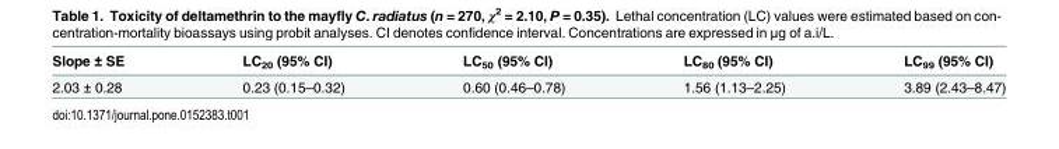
<table><thead><tr><td>Slope ± SE</td><td>LC<sub>20</sub> (95% CI)</td><td>LC<sub>50</sub> (95% CI)</td><td>LC<sub>80</sub> (95% CI)</td><td>LC<sub>99</sub> (95% CI)</td></tr></thead><tbody><tr><td>2.03 ± 0.28</td><td>0.23 (0.15–0.32)</td><td>0.60 (0.46–0.78)</td><td>1.56 (1.13–2.25)</td><td>3.89 (2.43–8.47)</td></tr></tbody></table>